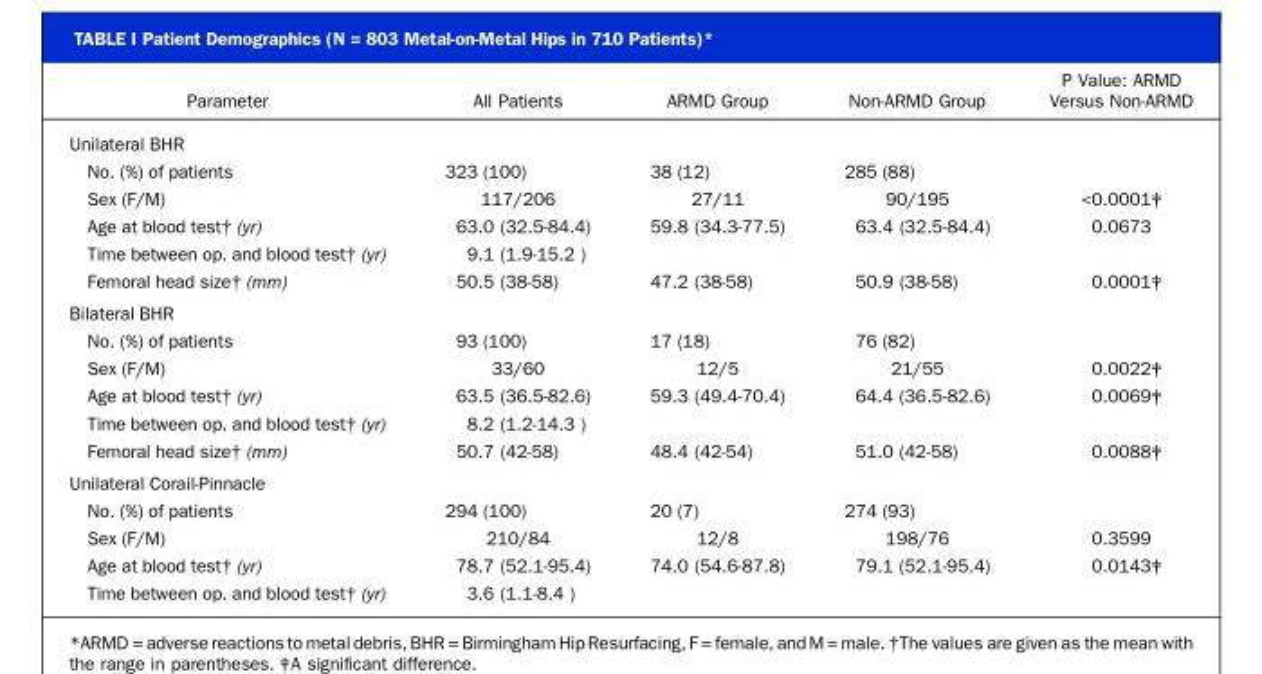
<table><thead><tr><td>Parameter</td><td>All Patients</td><td>ARMD Group</td><td>Non-ARMD Group</td><td>P Value: ARMD Versus Non-ARMD</td></tr></thead><tbody><tr><td colspan="5">Unilateral BHR</td></tr><tr><td>No. (%) of patients</td><td>323 (100)</td><td>38 (12)</td><td>285 (88)</td><td></td></tr><tr><td>Sex (F/M)</td><td>117/206</td><td>27/11</td><td>90/195</td><td>&lt;0.0001‡</td></tr><tr><td>Age at blood test† (yr)</td><td>63.0 (32.5-84.4)</td><td>59.8 (34.3-77.5)</td><td>63.4 (32.5-84.4)</td><td>0.0673</td></tr><tr><td>Time between op. and blood test† (yr)</td><td>9.1 (1.9-15.2 )</td><td></td><td></td><td></td></tr><tr><td>Femoral head size† (mm)</td><td>50.5 (38-58)</td><td>47.2 (38-58)</td><td>50.9 (38-58)</td><td>0.0001‡</td></tr><tr><td colspan="5">Bilateral BHR</td></tr><tr><td>No. (%) of patients</td><td>93 (100)</td><td>17 (18)</td><td>76 (82)</td><td></td></tr><tr><td>Sex (F/M)</td><td>33/60</td><td>12/5</td><td>21/55</td><td>0.0022‡</td></tr><tr><td>Age at blood test† (yr)</td><td>63.5 (36.5-82.6)</td><td>59.3 (49.4-70.4)</td><td>64.4 (36.5-82.6)</td><td>0.0069‡</td></tr><tr><td>Time between op. and blood test† (yr)</td><td>8.2 (1.2-14.3 )</td><td></td><td></td><td></td></tr><tr><td>Femoral head size† (mm)</td><td>50.7 (42-58)</td><td>48.4 (42-54)</td><td>51.0 (42-58)</td><td>0.0088‡</td></tr><tr><td colspan="5">Unilateral Corail-Pinnacle</td></tr><tr><td>No. (%) of patients</td><td>294 (100)</td><td>20 (7)</td><td>274 (93)</td><td></td></tr><tr><td>Sex (F/M)</td><td>210/84</td><td>12/8</td><td>198/76</td><td>0.3599</td></tr><tr><td>Age at blood test† (yr)</td><td>78.7 (52.1-95.4)</td><td>74.0 (54.6-87.8)</td><td>79.1 (52.1-95.4)</td><td>0.0143‡</td></tr><tr><td>Time between op. and blood test† (yr)</td><td>3.6 (1.1-8.4 )</td><td></td><td></td><td></td></tr></tbody></table>